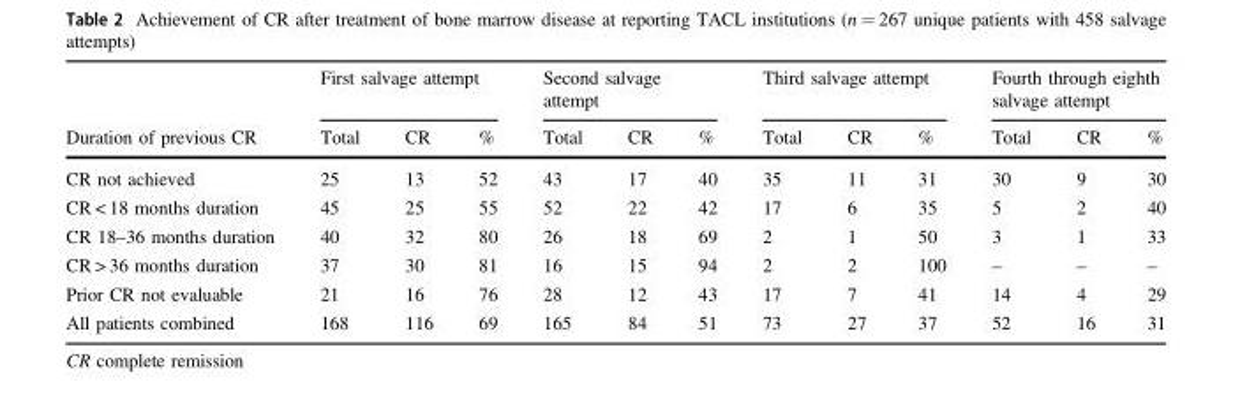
<table><thead><tr><td rowspan="2">Duration of previous CR</td><td colspan="3">First salvage attempt</td><td colspan="3">Second salvage attempt</td><td colspan="3">Third salvage attempt</td><td colspan="3">Fourth through eighth salvage attempt</td></tr><tr><td>Total</td><td>CR</td><td>%</td><td>Total</td><td>CR</td><td>%</td><td>Total</td><td>CR</td><td>%</td><td>Total</td><td>CR</td><td>%</td></tr></thead><tbody><tr><td>CR not achieved</td><td>25</td><td>13</td><td>52</td><td>43</td><td>17</td><td>40</td><td>35</td><td>11</td><td>31</td><td>30</td><td>9</td><td>30</td></tr><tr><td>CR &lt; 18 months duration</td><td>45</td><td>25</td><td>55</td><td>52</td><td>22</td><td>42</td><td>17</td><td>6</td><td>35</td><td>5</td><td>2</td><td>40</td></tr><tr><td>CR 18–36 months duration</td><td>40</td><td>32</td><td>80</td><td>26</td><td>18</td><td>69</td><td>2</td><td>1</td><td>50</td><td>3</td><td>1</td><td>33</td></tr><tr><td>CR &gt; 36 months duration</td><td>37</td><td>30</td><td>81</td><td>16</td><td>15</td><td>94</td><td>2</td><td>2</td><td>100</td><td>–</td><td>–</td><td>–</td></tr><tr><td>Prior CR not evaluable</td><td>21</td><td>16</td><td>76</td><td>28</td><td>12</td><td>43</td><td>17</td><td>7</td><td>41</td><td>14</td><td>4</td><td>29</td></tr><tr><td>All patients combined</td><td>168</td><td>116</td><td>69</td><td>165</td><td>84</td><td>51</td><td>73</td><td>27</td><td>37</td><td>52</td><td>16</td><td>31</td></tr></tbody></table>